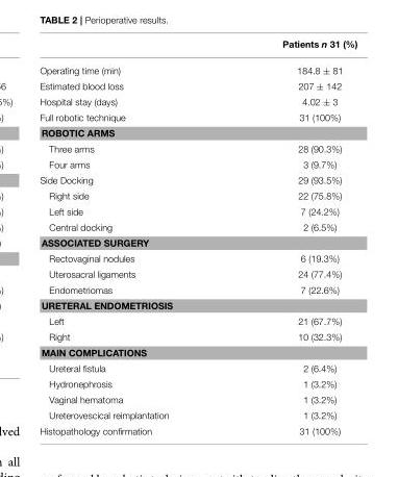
<table><thead><tr><td></td><td>Patients n 31 (%)</td></tr></thead><tbody><tr><td>Operating time (min)</td><td>184.8 ± 81</td></tr><tr><td>Estimated blood loss</td><td>207 ± 142</td></tr><tr><td>Hospital stay (days)</td><td>4.02 ± 3</td></tr><tr><td>Full robotic technique</td><td>31 (100%)</td></tr><tr><td colspan="2">ROBOTIC ARMS</td></tr><tr><td>Three arms</td><td>28 (90.3%)</td></tr><tr><td>Four arms</td><td>3 (9.7%)</td></tr><tr><td>Side Docking</td><td>29 (93.5%)</td></tr><tr><td>Right side</td><td>22 (75.8%)</td></tr><tr><td>Left side</td><td>7 (24.2%)</td></tr><tr><td>Central docking</td><td>2 (6.5%)</td></tr><tr><td colspan="2">ASSOCIATED SURGERY</td></tr><tr><td>Rectovaginal nodules</td><td>6 (19.3%)</td></tr><tr><td>Uterosacral ligaments</td><td>24 (77.4%)</td></tr><tr><td>Endometriomas</td><td>7 (22.6%)</td></tr><tr><td colspan="2">URETERAL ENDOMETRIOSIS</td></tr><tr><td>Left</td><td>21 (67.7%)</td></tr><tr><td>Right</td><td>10 (32.3%)</td></tr><tr><td colspan="2">MAIN COMPLICATIONS</td></tr><tr><td>Ureteral fistula</td><td>2 (6.4%)</td></tr><tr><td>Hydronephrosis</td><td>1 (3.2%)</td></tr><tr><td>Vaginal hematoma</td><td>1 (3.2%)</td></tr><tr><td>Ureterovescical reimplantation</td><td>1 (3.2%)</td></tr><tr><td>Histopathology confirmation</td><td>31 (100%)</td></tr></tbody></table>